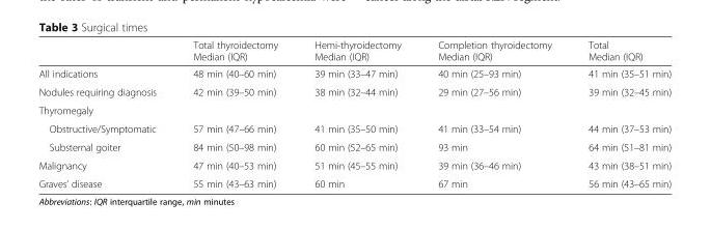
<table><thead><tr><td></td><td>Total thyroidectomy Median (IQR)</td><td>Hemi-thyroidectomy Median (IQR)</td><td>Completion thyroidectomy Median (IQR)</td><td>Total Median (IQR)</td></tr></thead><tbody><tr><td>All indications</td><td>48 min (40–60 min)</td><td>39 min (33–47 min)</td><td>40 min (25–93 min)</td><td>41 min (35–51 min)</td></tr><tr><td>Nodules requiring diagnosis</td><td>42 min (39–50 min)</td><td>38 min (32–44 min)</td><td>29 min (27–56 min)</td><td>39 min (32–45 min)</td></tr><tr><td colspan="5">Thyromegaly</td></tr><tr><td>Obstructive/Symptomatic</td><td>57 min (47–66 min)</td><td>41 min (35–50 min)</td><td>41 min (33–54 min)</td><td>44 min (37–53 min)</td></tr><tr><td>Substernal goiter</td><td>84 min (50–98 min)</td><td>60 min (52–65 min)</td><td>93 min</td><td>64 min (51–81 min)</td></tr><tr><td>Malignancy</td><td>47 min (40–53 min)</td><td>51 min (45–55 min)</td><td>39 min (36–46 min)</td><td>43 min (38–51 min)</td></tr><tr><td>Graves’ disease</td><td>55 min (43–63 min)</td><td>60 min</td><td>67 min</td><td>56 min (43–65 min)</td></tr></tbody></table>